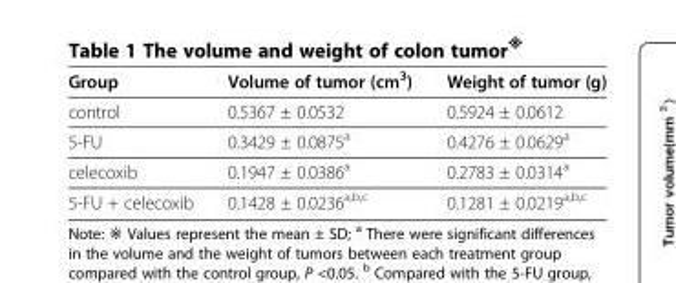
<table><thead><tr><td>Group</td><td>Volume of tumor (cm<sup>3</sup>)</td><td>Weight of tumor (g)</td></tr></thead><tbody><tr><td>control</td><td>0.5367 ± 0.0532</td><td>0.5924 ± 0.0612</td></tr><tr><td>5-FU</td><td>0.3429 ± 0.0875<sup>a</sup></td><td>0.4276 ± 0.0629<sup>a</sup></td></tr><tr><td>celecoxib</td><td>0.1947 ± 0.0386<sup>a</sup></td><td>0.2783 ± 0.0314<sup>a</sup></td></tr><tr><td>5-FU + celecoxib</td><td>0.1428 ± 0.0236<sup>a,b,c</sup></td><td>0.1281 ± 0.0219<sup>a,b,c</sup></td></tr></tbody></table>